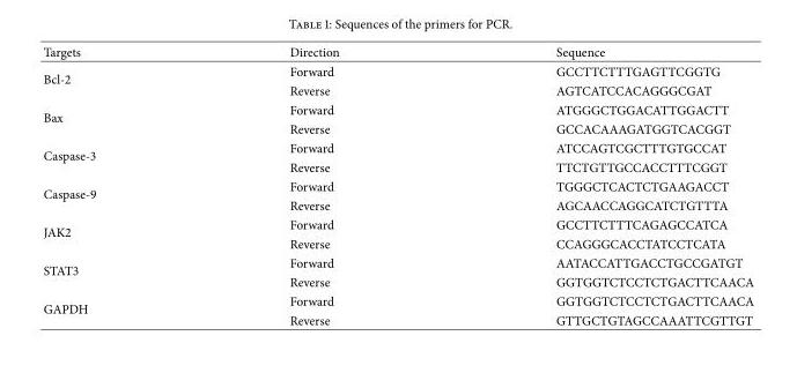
<table><thead><tr><td>Targets</td><td>Direction</td><td>Sequence</td></tr></thead><tbody><tr><td rowspan="2">Bcl-2</td><td>Forward</td><td>GCCTTCTTTGAGTTCGGTG</td></tr><tr><td>Reverse</td><td>AGTCATCCACAGGGCGAT</td></tr><tr><td rowspan="2">Bax</td><td>Forward</td><td>ATGGGCTGGACATTGGACTT</td></tr><tr><td>Reverse</td><td>GCCACAAAGATGGTCACGGT</td></tr><tr><td rowspan="2">Caspase-3</td><td>Forward</td><td>ATCCAGTCGCTTTGTGCCAT</td></tr><tr><td>Reverse</td><td>TTCTGTTGCCACCTTTCGGT</td></tr><tr><td rowspan="2">Caspase-9</td><td>Forward</td><td>TGGGCTCACTCTGAAGACCT</td></tr><tr><td>Reverse</td><td>AGCAACCAGGCATCTGTTTA</td></tr><tr><td rowspan="2">JAK2</td><td>Forward</td><td>GCCTTCTTTCAGAGCCATCA</td></tr><tr><td>Reverse</td><td>CCAGGGCACCTATCCTCATA</td></tr><tr><td rowspan="2">STAT3</td><td>Forward</td><td>AATACCATTGACCTGCCGATGT</td></tr><tr><td>Reverse</td><td>GGTGGTCTCCTCTGACTTCAACA</td></tr><tr><td rowspan="2">GAPDH</td><td>Forward</td><td>GGTGGTCTCCTCTGACTTCAACA</td></tr><tr><td>Reverse</td><td>GTTGCTGTAGCCAAATTCGTTGT</td></tr></tbody></table>